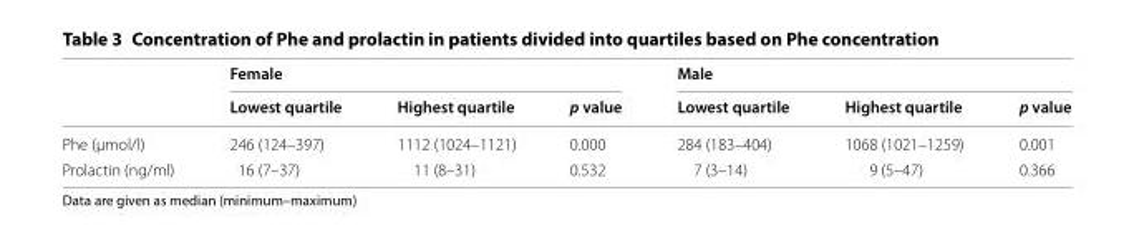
<table><thead><tr><td rowspan="2"></td><td colspan="3">Female</td><td colspan="3">Male</td></tr><tr><td>Lowest quartile</td><td>Highest quartile</td><td>p value</td><td>Lowest quartile</td><td>Highest quartile</td><td>p value</td></tr></thead><tbody><tr><td>Phe (μmol/l)</td><td>246 (124–397)</td><td>1112 (1024–1121)</td><td>0.000</td><td>284 (183–404)</td><td>1068 (1021–1259)</td><td>0.001</td></tr><tr><td>Prolactin (ng/ml)</td><td>16 (7–37)</td><td>11 (8–31)</td><td>0.532</td><td>7 (3–14)</td><td>9 (5–47)</td><td>0.366</td></tr></tbody></table>